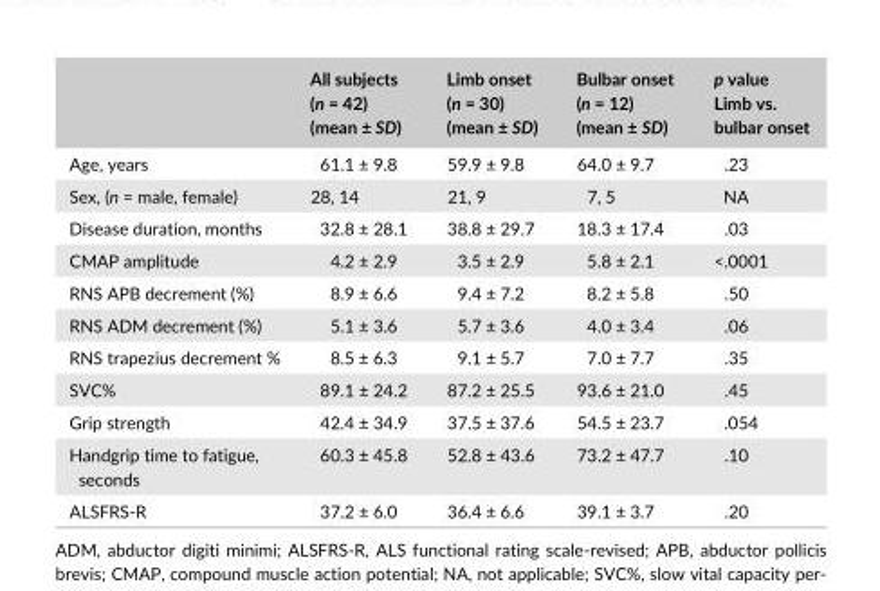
<table><thead><tr><td></td><td>All subjects (n = 42) (mean ± SD)</td><td>Limb onset (n = 30) (mean ± SD)</td><td>Bulbar onset (n = 12) (mean ± SD)</td><td>p value Limb vs. bulbar onset</td></tr></thead><tbody><tr><td>Age, years</td><td>61.1 ± 9.8</td><td>59.9 ± 9.8</td><td>64.0 ± 9.7</td><td>.23</td></tr><tr><td>Sex, (n = male, female)</td><td>28, 14</td><td>21, 9</td><td>7, 5</td><td>NA</td></tr><tr><td>Disease duration, months</td><td>32.8 ± 28.1</td><td>38.8 ± 29.7</td><td>18.3 ± 17.4</td><td>.03</td></tr><tr><td>CMAP amplitude</td><td>4.2 ± 2.9</td><td>3.5 ± 2.9</td><td>5.8 ± 2.1</td><td>&lt;.0001</td></tr><tr><td>RNS APB decrement (%)</td><td>8.9 ± 6.6</td><td>9.4 ± 7.2</td><td>8.2 ± 5.8</td><td>.50</td></tr><tr><td>RNS ADM decrement (%)</td><td>5.1 ± 3.6</td><td>5.7 ± 3.6</td><td>4.0 ± 3.4</td><td>.06</td></tr><tr><td>RNS trapezius decrement %</td><td>8.5 ± 6.3</td><td>9.1 ± 5.7</td><td>7.0 ± 7.7</td><td>.35</td></tr><tr><td>SVC%</td><td>89.1 ± 24.2</td><td>87.2 ± 25.5</td><td>93.6 ± 21.0</td><td>.45</td></tr><tr><td>Grip strength</td><td>42.4 ± 34.9</td><td>37.5 ± 37.6</td><td>54.5 ± 23.7</td><td>.054</td></tr><tr><td>Handgrip time to fatigue, seconds</td><td>60.3 ± 45.8</td><td>52.8 ± 43.6</td><td>73.2 ± 47.7</td><td>.10</td></tr><tr><td>ALSFRS- R</td><td>37.2 ± 6.0</td><td>36.4 ± 6.6</td><td>39.1 ± 3.7</td><td>.20</td></tr></tbody></table>